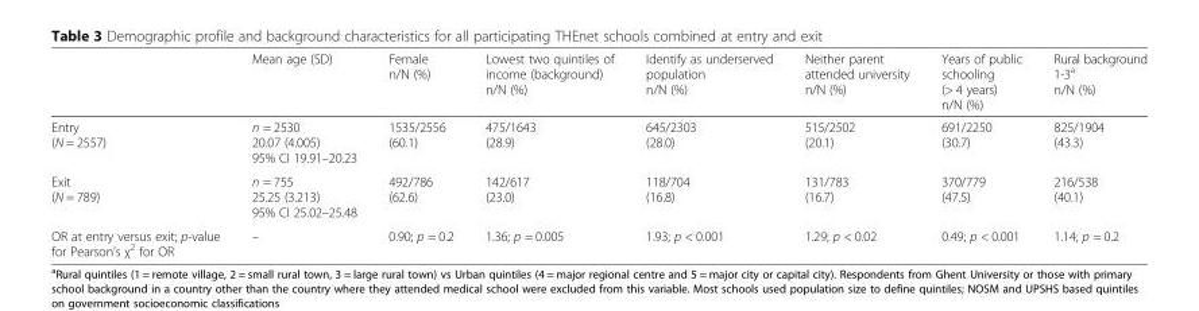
<table><thead><tr><td></td><td>Mean age (SD)</td><td>Female n/N (%)</td><td>Lowest two quintiles of income (background) n/N (%)</td><td>Identify as underserved population n/N (%)</td><td>Neither parent attended university n/N (%)</td><td>Years of public schooling (&gt; 4 years) n/N (%)</td><td>Rural background 1-3<sup>a</sup> n/N (%)</td></tr></thead><tbody><tr><td>Entry (N = 2557)</td><td>n = 2530 20.07 (4.005) 95% CI 19.91–20.23</td><td>1535/2556 (60.1)</td><td>475/1643 (28.9)</td><td>645/2303 (28.0)</td><td>515/2502 (20.1)</td><td>691/2250 (30.7)</td><td>825/1904 (43.3)</td></tr><tr><td>Exit (N = 789)</td><td>n = 755 25.25 (3.213) 95% CI 25.02–25.48</td><td>492/786 (62.6)</td><td>142/617 (23.0)</td><td>118/704 (16.8)</td><td>131/783 (16.7)</td><td>370/779 (47.5)</td><td>216/538 (40.1)</td></tr><tr><td>OR at entry versus exit; p-value for Pearson’s χ<sup>2</sup> for OR</td><td>–</td><td>0.90; p = 0.2</td><td>1.36; p = 0.005</td><td>1.93; p &lt; 0.001</td><td>1.29; p &lt; 0.02</td><td>0.49; p &lt; 0.001</td><td>1.14; p = 0.2</td></tr></tbody></table>